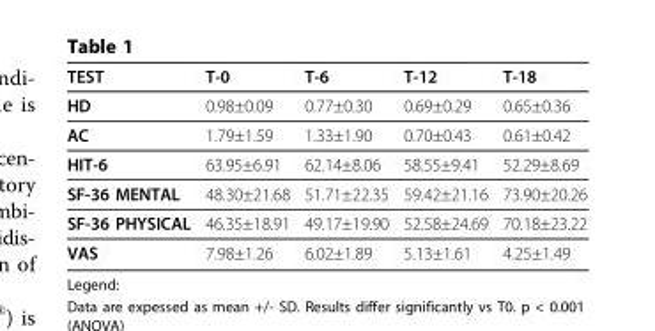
<table><thead><tr><td>TEST</td><td>T-0</td><td>T-6</td><td>T-12</td><td>T-18</td></tr></thead><tbody><tr><td>HD</td><td>0.98±0.09</td><td>0.77±0.30</td><td>0.69±0.29</td><td>0.65±0.36</td></tr><tr><td>AC</td><td>1.79±1.59</td><td>1.33±1.90</td><td>0.70±0.43</td><td>0.61±0.42</td></tr><tr><td>HIT-6</td><td>63.95±6.91</td><td>62.14±8.06</td><td>58.55±9.41</td><td>52.29±8.69</td></tr><tr><td>SF-36 MENTAL</td><td>48.30±21.68</td><td>51.71±22.35</td><td>59.42±21.16</td><td>73.90±20.26</td></tr><tr><td>SF-36 PHYSICAL</td><td>46.35±18.91</td><td>49.17±19.90</td><td>52.58±24.69</td><td>70.18±23.22</td></tr><tr><td>VAS</td><td>7.98±1.26</td><td>6.02±1.89</td><td>5.13±1.61</td><td>4.25±1.49</td></tr></tbody></table>